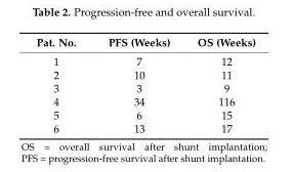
<table><thead><tr><td>Pat. No.</td><td>PFS (Weeks)</td><td>OS (Weeks)</td></tr></thead><tbody><tr><td>1</td><td>7</td><td>12</td></tr><tr><td>2</td><td>10</td><td>11</td></tr><tr><td>3</td><td>3</td><td>9</td></tr><tr><td>4</td><td>34</td><td>116</td></tr><tr><td>5</td><td>6</td><td>15</td></tr><tr><td>6</td><td>13</td><td>17</td></tr></tbody></table>